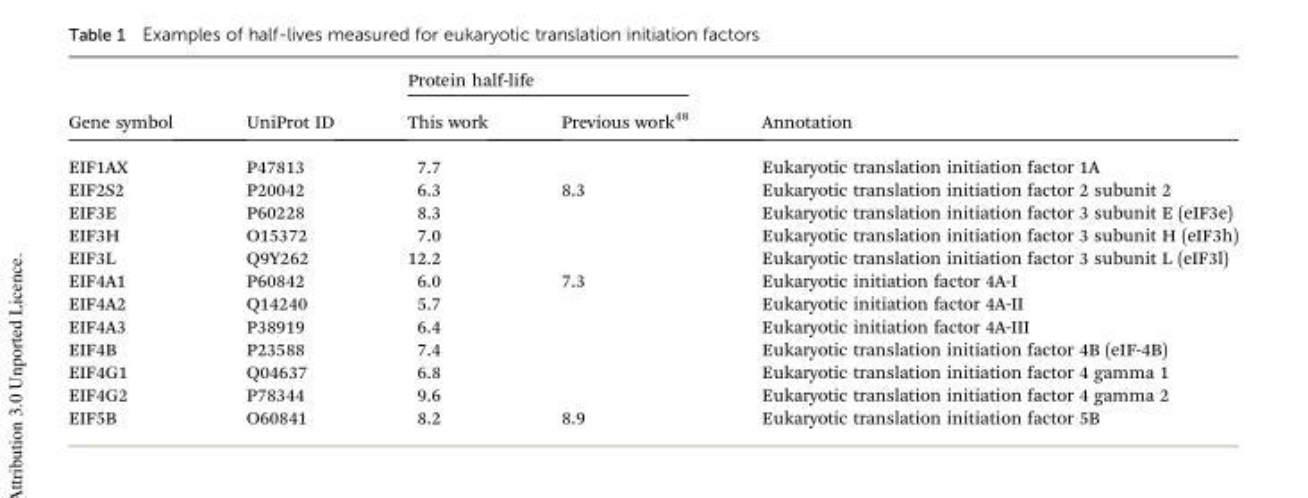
<table><thead><tr><td rowspan="2">Gene symbol</td><td rowspan="2">UniProt ID</td><td colspan="2">Protein half-life</td><td rowspan="2">Annotation</td></tr><tr><td>This work</td><td>Previous work<sup>48</sup></td></tr></thead><tbody><tr><td>EIF1AX</td><td>P47813</td><td>7.7</td><td></td><td>Eukaryotic translation initiation factor 1A</td></tr><tr><td>EIF2S2</td><td>P20042</td><td>6.3</td><td>8.3</td><td>Eukaryotic translation initiation factor 2 subunit 2</td></tr><tr><td>EIF3E</td><td>P60228</td><td>8.3</td><td></td><td>Eukaryotic translation initiation factor 3 subunit E (eIF3e)</td></tr><tr><td>EIF3H</td><td>O15372</td><td>7.0</td><td></td><td>Eukaryotic translation initiation factor 3 subunit H (eIF3h)</td></tr><tr><td>EIF3L</td><td>Q9Y262</td><td>12.2</td><td></td><td>Eukaryotic translation initiation factor 3 subunit L (eIF3l)</td></tr><tr><td>EIF4A1</td><td>P60842</td><td>6.0</td><td>7.3</td><td>Eukaryotic initiation factor 4A-I</td></tr><tr><td>EIF4A2</td><td>Q14240</td><td>5.7</td><td></td><td>Eukaryotic initiation factor 4A-II</td></tr><tr><td>EIF4A3</td><td>P38919</td><td>6.4</td><td></td><td>Eukaryotic initiation factor 4A-III</td></tr><tr><td>EIF4B</td><td>P23588</td><td>7.4</td><td></td><td>Eukaryotic translation initiation factor 4B (eIF-4B)</td></tr><tr><td>EIF4G1</td><td>Q04637</td><td>6.8</td><td></td><td>Eukaryotic translation initiation factor 4 gamma 1</td></tr><tr><td>EIF4G2</td><td>P78344</td><td>9.6</td><td></td><td>Eukaryotic translation initiation factor 4 gamma 2</td></tr><tr><td>EIF5B</td><td>O60841</td><td>8.2</td><td>8.9</td><td>Eukaryotic translation initiation factor 5B</td></tr></tbody></table>